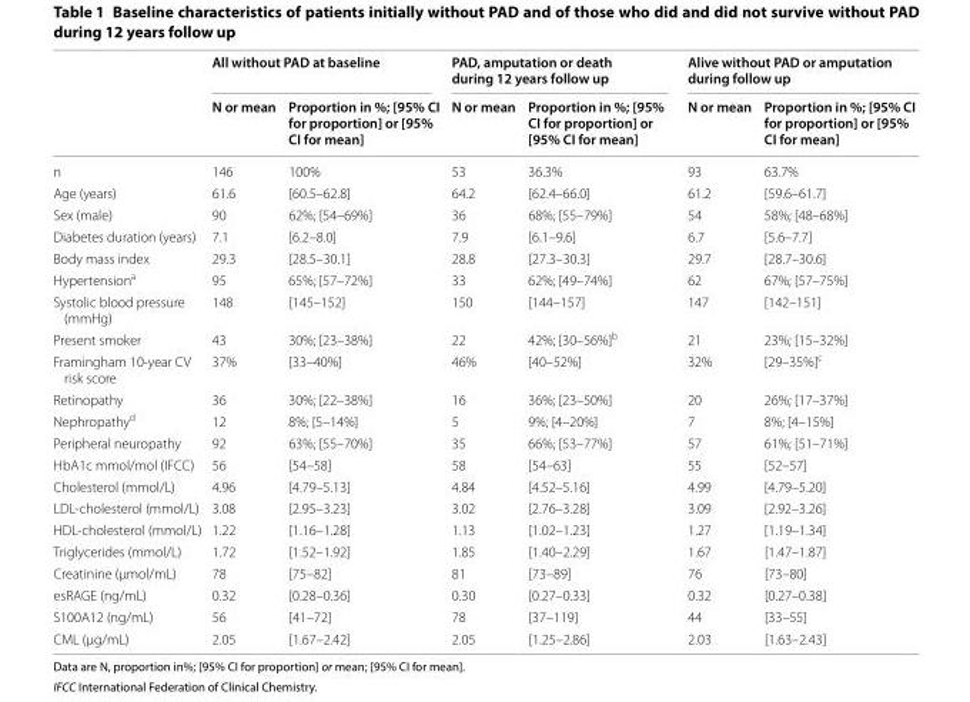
<table><thead><tr><td rowspan="2"></td><td colspan="2">All without PAD at baseline</td><td colspan="2">PAD, amputation or death during 12 years follow up</td><td colspan="2">Alive without PAD or amputation during follow up</td></tr><tr><td>N or mean</td><td>Proportion in %; [95% CI for proportion] or [95% CI for mean]</td><td>N or mean</td><td>Proportion in %; [95% CI for proportion] or [95% CI for mean]</td><td>N or mean</td><td>Proportion in %; [95% CI for proportion] or [95% CI for mean]</td></tr></thead><tbody><tr><td>n</td><td>146</td><td>100%</td><td>53</td><td>36.3%</td><td>93</td><td>63.7%</td></tr><tr><td>Age (years)</td><td>61.6</td><td>[60.5–62.8]</td><td>64.2</td><td>[62.4–66.0]</td><td>61.2</td><td>[59.6–61.7]</td></tr><tr><td>Sex (male)</td><td>90</td><td>62%; [54–69%]</td><td>36</td><td>68%; [55–79%]</td><td>54</td><td>58%; [48–68%]</td></tr><tr><td>Diabetes duration (years)</td><td>7.1</td><td>[6.2–8.0]</td><td>7.9</td><td>[6.1–9.6]</td><td>6.7</td><td>[5.6–7.7]</td></tr><tr><td>Body mass index</td><td>29.3</td><td>[28.5–30.1]</td><td>28.8</td><td>[27.3–30.3]</td><td>29.7</td><td>[28.7–30.6]</td></tr><tr><td>Hypertension<sup>a</sup></td><td>95</td><td>65%; [57–72%]</td><td>33</td><td>62%; [49–74%]</td><td>62</td><td>67%; [57–75%]</td></tr><tr><td>Systolic blood pressure (mmHg)</td><td>148</td><td>[145–152]</td><td>150</td><td>[144–157]</td><td>147</td><td>[142–151]</td></tr><tr><td>Present smoker</td><td>43</td><td>30%; [23–38%]</td><td>22</td><td>42%; [30–56%]<sup>b</sup></td><td>21</td><td>23%; [15–32%]</td></tr><tr><td>Framingham 10-year CV risk score</td><td>37%</td><td>[33–40%]</td><td>46%</td><td>[40–52%]</td><td>32%</td><td>[29–35%]<sup>c</sup></td></tr><tr><td>Retinopathy</td><td>36</td><td>30%; [22–38%]</td><td>16</td><td>36%; [23–50%]</td><td>20</td><td>26%; [17–37%]</td></tr><tr><td>Nephropathy<sup>d</sup></td><td>12</td><td>8%; [5–14%]</td><td>5</td><td>9%; [4–20%]</td><td>7</td><td>8%; [4–15%]</td></tr><tr><td>Peripheral neuropathy</td><td>92</td><td>63%; [55–70%]</td><td>35</td><td>66%; [53–77%]</td><td>57</td><td>61%; [51–71%]</td></tr><tr><td>HbA1c mmol/mol (IFCC)</td><td>56</td><td>[54–58]</td><td>58</td><td>[54–63]</td><td>55</td><td>[52–57]</td></tr><tr><td>Cholesterol (mmol/L)</td><td>4.96</td><td>[4.79–5.13]</td><td>4.84</td><td>[4.52–5.16]</td><td>4.99</td><td>[4.79–5.20]</td></tr><tr><td>LDL-cholesterol (mmol/L)</td><td>3.08</td><td>[2.95–3.23]</td><td>3.02</td><td>[2.76–3.28]</td><td>3.09</td><td>[2.92–3.26]</td></tr><tr><td>HDL-cholesterol (mmol/L)</td><td>1.22</td><td>[1.16–1.28]</td><td>1.13</td><td>[1.02–1.23]</td><td>1.27</td><td>[1.19–1.34]</td></tr><tr><td>Triglycerides (mmol/L)</td><td>1.72</td><td>[1.52–1.92]</td><td>1.85</td><td>[1.40–2.29]</td><td>1.67</td><td>[1.47–1.87]</td></tr><tr><td>Creatinine (µmol/mL)</td><td>78</td><td>[75–82]</td><td>81</td><td>[73–89]</td><td>76</td><td>[73–80]</td></tr><tr><td>esRAGE (ng/mL)</td><td>0.32</td><td>[0.28–0.36]</td><td>0.30</td><td>[0.27–0.33]</td><td>0.32</td><td>[0.27–0.38]</td></tr><tr><td>S100A12 (ng/mL)</td><td>56</td><td>[41–72]</td><td>78</td><td>[37–119]</td><td>44</td><td>[33–55]</td></tr><tr><td>CML (µg/mL)</td><td>2.05</td><td>[1.67–2.42]</td><td>2.05</td><td>[1.25–2.86]</td><td>2.03</td><td>[1.63–2.43]</td></tr></tbody></table>